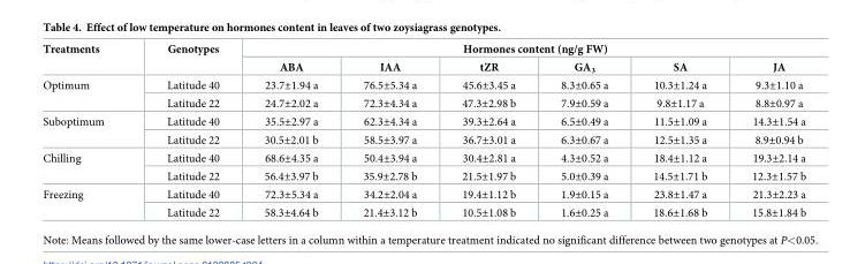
<table><thead><tr><td rowspan="2">Treatments</td><td rowspan="2">Genotypes</td><td colspan="6">Hormones content (ng/g FW)</td></tr><tr><td>ABA</td><td>IAA</td><td>tZR</td><td>GA<sub>3</sub></td><td>SA</td><td>JA</td></tr></thead><tbody><tr><td rowspan="2">Optimum</td><td>Latitude 40</td><td>23.7±1.94 a</td><td>76.5±5.34 a</td><td>45.6±3.45 a</td><td>8.3±0.65 a</td><td>10.3±1.24 a</td><td>9.3±1.10 a</td></tr><tr><td>Latitude 22</td><td>24.7±2.02 a</td><td>72.3±4.34 a</td><td>47.3±2.98 b</td><td>7.9±0.59 a</td><td>9.8±1.17 a</td><td>8.8±0.97 a</td></tr><tr><td rowspan="2">Suboptimum</td><td>Latitude 40</td><td>35.5±2.97 a</td><td>62.3±4.34 a</td><td>39.3±2.64 a</td><td>6.5±0.49 a</td><td>11.5±1.09 a</td><td>14.3±1.54 a</td></tr><tr><td>Latitude 22</td><td>30.5±2.01 b</td><td>58.5±3.97 a</td><td>36.7±3.01 a</td><td>6.3±0.67 a</td><td>12.5±1.35 a</td><td>8.9±0.94 b</td></tr><tr><td rowspan="2">Chilling</td><td>Latitude 40</td><td>68.6±4.35 a</td><td>50.4±3.94 a</td><td>30.4±2.81 a</td><td>4.3±0.52 a</td><td>18.4±1.12 a</td><td>19.3±2.14 a</td></tr><tr><td>Latitude 22</td><td>56.4±3.97 b</td><td>35.9±2.78 b</td><td>21.5±1.97 b</td><td>5.0±0.39 a</td><td>14.5±1.71 b</td><td>12.3±1.57 b</td></tr><tr><td rowspan="2">Freezing</td><td>Latitude 40</td><td>72.3±5.34 a</td><td>34.2±2.04 a</td><td>19.4±1.12 b</td><td>1.9±0.15 a</td><td>23.8±1.47 a</td><td>21.3±2.23 a</td></tr><tr><td>Latitude 22</td><td>58.3±4.64 b</td><td>21.4±3.12 b</td><td>10.5±1.08 b</td><td>1.6±0.25 a</td><td>18.6±1.68 b</td><td>15.8±1.84 b</td></tr></tbody></table>